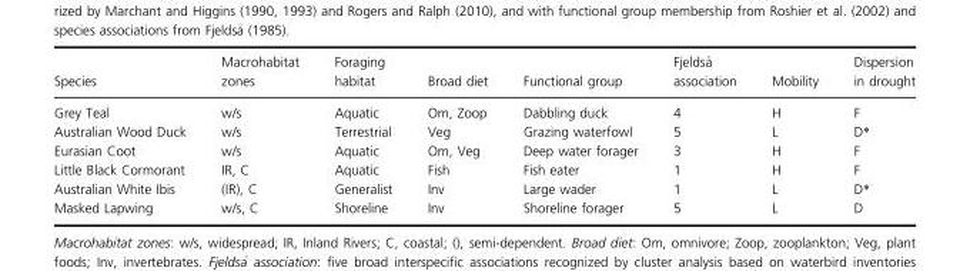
<table><thead><tr><td>Species</td><td>Macrohabitat zones</td><td>Foraging habitat</td><td>Broad diet</td><td>Functional group</td><td>Fjelds�a association</td><td>Mobility</td><td>Dispersion in drought</td></tr></thead><tbody><tr><td>Grey Teal</td><td>w/s</td><td>Aquatic</td><td>Om, Zoop</td><td>Dabbling duck</td><td>4</td><td>H</td><td>F</td></tr><tr><td>Australian Wood Duck</td><td>w/s</td><td>Terrestrial</td><td>Veg</td><td>Grazing waterfowl</td><td>5</td><td>L</td><td>D*</td></tr><tr><td>Eurasian Coot</td><td>w/s</td><td>Aquatic</td><td>Om, Veg</td><td>Deep water forager</td><td>3</td><td>H</td><td>F</td></tr><tr><td>Little Black Cormorant</td><td>IR, C</td><td>Aquatic</td><td>Fish</td><td>Fish eater</td><td>1</td><td>H</td><td>F</td></tr><tr><td>Australian White Ibis</td><td>(IR), C</td><td>Generalist</td><td>Inv</td><td>Large wader</td><td>1</td><td>L</td><td>D*</td></tr><tr><td>Masked Lapwing</td><td>w/s, C</td><td>Shoreline</td><td>Inv</td><td>Shoreline forager</td><td>5</td><td>L</td><td>D</td></tr></tbody></table>